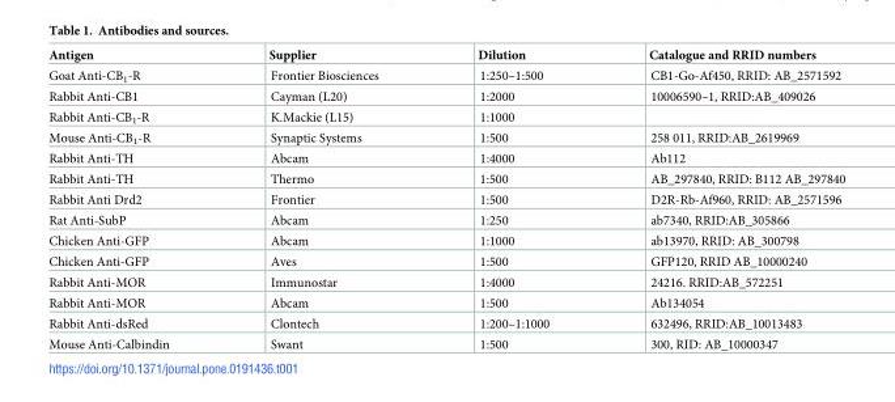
<table><thead><tr><td>Antigen</td><td>Supplier</td><td>Dilution</td><td>Catalogue and RRID numbers</td></tr></thead><tbody><tr><td>Goat Anti-CB<sub>1</sub>-R</td><td>Frontier Biosciences</td><td>1:250–1:500</td><td>CB1-Go-Af450, RRID: AB_2571592</td></tr><tr><td>Rabbit Anti-CB1</td><td>Cayman (L20)</td><td>1:2000</td><td>10006590–1, RRID:AB_409026</td></tr><tr><td>Rabbit Anti-CB<sub>1</sub>-R</td><td>K.Mackie (L15)</td><td>1:1000</td><td></td></tr><tr><td>Mouse Anti-CB<sub>1</sub>-R</td><td>Synaptic Systems</td><td>1:500</td><td>258 011, RRID:AB_2619969</td></tr><tr><td>Rabbit Anti-TH</td><td>Abcam</td><td>1:4000</td><td>Ab112</td></tr><tr><td>Rabbit Anti-TH</td><td>Thermo</td><td>1:500</td><td>AB_297840, RRID: B112 AB_297840</td></tr><tr><td>Rabbit Anti Drd2</td><td>Frontier</td><td>1:500</td><td>D2R-Rb-Af960, RRID: AB_2571596</td></tr><tr><td>Rat Anti-SubP</td><td>Abcam</td><td>1:250</td><td>ab7340, RRID:AB_305866</td></tr><tr><td>Chicken Anti-GFP</td><td>Abcam</td><td>1:1000</td><td>ab13970, RRID: AB_300798</td></tr><tr><td>Chicken Anti-GFP</td><td>Aves</td><td>1:500</td><td>GFP120, RRID AB_10000240</td></tr><tr><td>Rabbit Anti-MOR</td><td>Immunostar</td><td>1:4000</td><td>24216. RRID:AB_572251</td></tr><tr><td>Rabbit Anti-MOR</td><td>Abcam</td><td>1:500</td><td>Ab134054</td></tr><tr><td>Rabbit Anti-dsRed</td><td>Clontech</td><td>1:200–1:1000</td><td>632496, RRID:AB_10013483</td></tr><tr><td>Mouse Anti-Calbindin</td><td>Swant</td><td>1:500</td><td>300, RID: AB_10000347</td></tr></tbody></table>